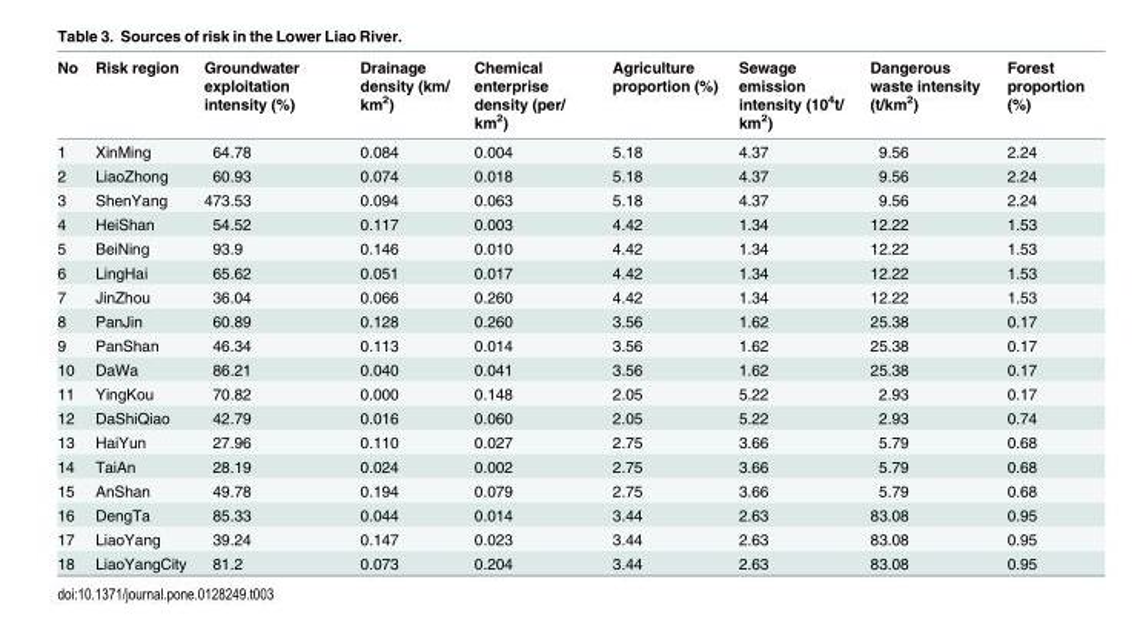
<table><thead><tr><td>No</td><td>Risk region</td><td>Groundwater exploitation intensity (%)</td><td>Drainage density (km/ km<sup>2</sup>)</td><td>Chemical enterprise density (per/ km<sup>2</sup>)</td><td>Agriculture proportion (%)</td><td>Sewage emission intensity (10<sup>4</sup>t/ km<sup>2</sup>)</td><td>Dangerous waste intensity (t/km<sup>2</sup>)</td><td>Forest proportion (%)</td></tr></thead><tbody><tr><td>1</td><td>XinMing</td><td>64.78</td><td>0.084</td><td>0.004</td><td>5.18</td><td>4.37</td><td>9.56</td><td>2.24</td></tr><tr><td>2</td><td>LiaoZhong</td><td>60.93</td><td>0.074</td><td>0.018</td><td>5.18</td><td>4.37</td><td>9.56</td><td>2.24</td></tr><tr><td>3</td><td>ShenYang</td><td>473.53</td><td>0.094</td><td>0.063</td><td>5.18</td><td>4.37</td><td>9.56</td><td>2.24</td></tr><tr><td>4</td><td>HeiShan</td><td>54.52</td><td>0.117</td><td>0.003</td><td>4.42</td><td>1.34</td><td>12.22</td><td>1.53</td></tr><tr><td>5</td><td>BeiNing</td><td>93.9</td><td>0.146</td><td>0.010</td><td>4.42</td><td>1.34</td><td>12.22</td><td>1.53</td></tr><tr><td>6</td><td>LingHai</td><td>65.62</td><td>0.051</td><td>0.017</td><td>4.42</td><td>1.34</td><td>12.22</td><td>1.53</td></tr><tr><td>7</td><td>JinZhou</td><td>36.04</td><td>0.066</td><td>0.260</td><td>4.42</td><td>1.34</td><td>12.22</td><td>1.53</td></tr><tr><td>8</td><td>PanJin</td><td>60.89</td><td>0.128</td><td>0.260</td><td>3.56</td><td>1.62</td><td>25.38</td><td>0.17</td></tr><tr><td>9</td><td>PanShan</td><td>46.34</td><td>0.113</td><td>0.014</td><td>3.56</td><td>1.62</td><td>25.38</td><td>0.17</td></tr><tr><td>10</td><td>DaWa</td><td>86.21</td><td>0.040</td><td>0.041</td><td>3.56</td><td>1.62</td><td>25.38</td><td>0.17</td></tr><tr><td>11</td><td>YingKou</td><td>70.82</td><td>0.000</td><td>0.148</td><td>2.05</td><td>5.22</td><td>2.93</td><td>0.17</td></tr><tr><td>12</td><td>DaShiQiao</td><td>42.79</td><td>0.016</td><td>0.060</td><td>2.05</td><td>5.22</td><td>2.93</td><td>0.74</td></tr><tr><td>13</td><td>HaiYun</td><td>27.96</td><td>0.110</td><td>0.027</td><td>2.75</td><td>3.66</td><td>5.79</td><td>0.68</td></tr><tr><td>14</td><td>TaiAn</td><td>28.19</td><td>0.024</td><td>0.002</td><td>2.75</td><td>3.66</td><td>5.79</td><td>0.68</td></tr><tr><td>15</td><td>AnShan</td><td>49.78</td><td>0.194</td><td>0.079</td><td>2.75</td><td>3.66</td><td>5.79</td><td>0.68</td></tr><tr><td>16</td><td>DengTa</td><td>85.33</td><td>0.044</td><td>0.014</td><td>3.44</td><td>2.63</td><td>83.08</td><td>0.95</td></tr><tr><td>17</td><td>LiaoYang</td><td>39.24</td><td>0.147</td><td>0.023</td><td>3.44</td><td>2.63</td><td>83.08</td><td>0.95</td></tr><tr><td>18</td><td>LiaoYangCity</td><td>81.2</td><td>0.073</td><td>0.204</td><td>3.44</td><td>2.63</td><td>83.08</td><td>0.95</td></tr></tbody></table>